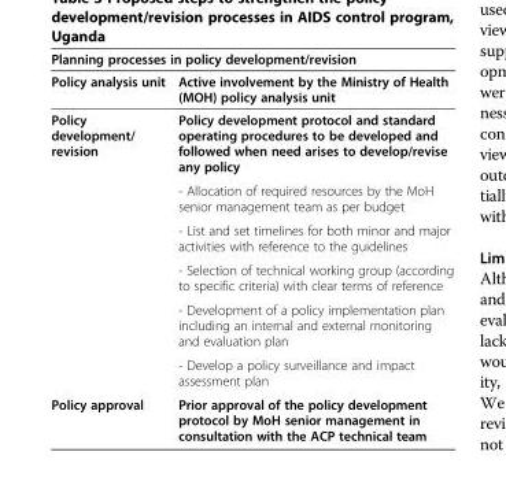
<table><thead><tr><td colspan="2">Planning processes in policy development/revision</td></tr><tr><td>Policy analysis unit</td><td>Active involvement by the Ministry of Health (MOH) policy analysis unit</td></tr></thead><tbody><tr><td rowspan="6">Policy development/ revision</td><td>Policy development protocol and standard operating procedures to be developed and followed when need arises to develop/revise any policy</td></tr><tr><td>- Allocation of required resources by the MoH senior management team as per budget</td></tr><tr><td>- List and set timelines for both minor and major activities with reference to the guidelines</td></tr><tr><td>- Selection of technical working group (according to specific criteria) with clear terms of reference</td></tr><tr><td>- Development of a policy implementation plan including an internal and external monitoring and evaluation plan</td></tr><tr><td>- Develop a policy surveillance and impact assessment plan</td></tr><tr><td>Policy approval</td><td>Prior approval of the policy development protocol by MoH senior management in consultation with the ACP technical team</td></tr></tbody></table>